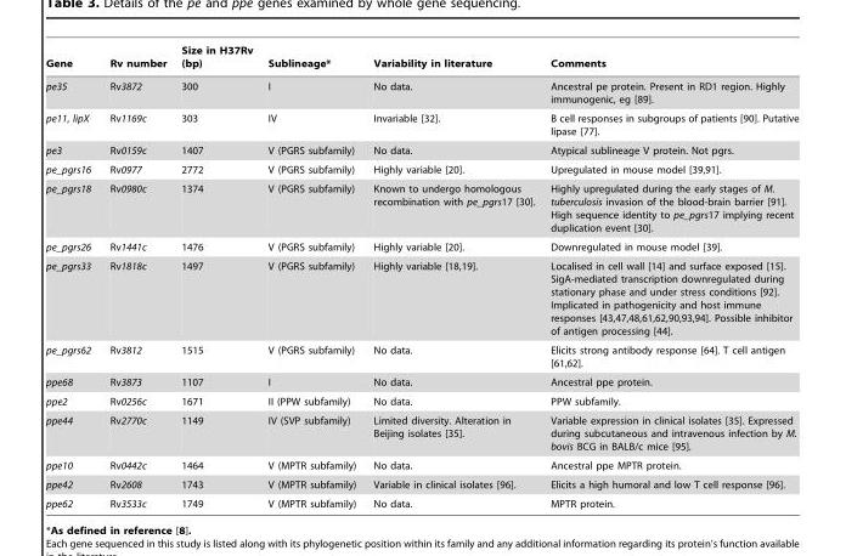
<table><thead><tr><td>Gene</td><td>Rv number</td><td>Size in H37Rv (bp)</td><td>Sublineage*</td><td>Variability in literature</td><td>Comments</td></tr></thead><tbody><tr><td>pe35</td><td>Rv3872</td><td>300</td><td>I</td><td>No data.</td><td>Ancestral pe protein. Present in RD1 region. Highly immunogenic, eg [89].</td></tr><tr><td>pe11, lipX</td><td>Rv1169c</td><td>303</td><td>IV</td><td>Invariable [32].</td><td>B cell responses in subgroups of patients [90]. Putative lipase [77].</td></tr><tr><td>pe3</td><td>Rv0159c</td><td>1407</td><td>V (PGRS subfamily)</td><td>No data.</td><td>Atypical sublineage V protein. Not pgrs.</td></tr><tr><td>pe_pgrs16</td><td>Rv0977</td><td>2772</td><td>V (PGRS subfamily)</td><td>Highly variable [20].</td><td>Upregulated in mouse model [39,91].</td></tr><tr><td>pe_pgrs18</td><td>Rv0980c</td><td>1374</td><td>V (PGRS subfamily)</td><td>Known to undergo homologous recombination with pe_pgrs17 [30].</td><td>Highly upregulated during the early stages of M. tuberculosis invasion of the blood-brain barrier [91]. High sequence identity to pe_pgrs17 implying recent duplication event [30].</td></tr><tr><td>pe_pgrs26</td><td>Rv1441c</td><td>1476</td><td>V (PGRS subfamily)</td><td>Highly variable [20].</td><td>Downregulated in mouse model [39].</td></tr><tr><td>pe_pgrs33</td><td>Rv1818c</td><td>1497</td><td>V (PGRS subfamily)</td><td>Highly variable [18,19].</td><td>Localised in cell wall [14] and surface exposed [15]. SigA-mediated transcription downregulated during stationary phase and under stress conditions [92]. Implicated in pathogenicity and host immune responses [43,47,48,61,62,90,93,94]. Possible inhibitor of antigen processing [44].</td></tr><tr><td>pe_pgrs62</td><td>Rv3812</td><td>1515</td><td>V (PGRS subfamily)</td><td>No data.</td><td>Elicits strong antibody response [64]. T cell antigen [61,62].</td></tr><tr><td>ppe68</td><td>Rv3873</td><td>1107</td><td>I</td><td>No data.</td><td>Ancestral ppe protein.</td></tr><tr><td>ppe2</td><td>Rv0256c</td><td>1671</td><td>II (PPW subfamily)</td><td>No data.</td><td>PPW subfamily.</td></tr><tr><td>ppe44</td><td>Rv2770c</td><td>1149</td><td>IV (SVP subfamily)</td><td>Limited diversity. Alteration in Beijing isolates [35].</td><td>Variable expression in clinical isolates [35]. Expressed during subcutaneous and intravenous infection by M. bovis BCG in BALB/c mice [95].</td></tr><tr><td>ppe10</td><td>Rv0442c</td><td>1464</td><td>V (MPTR subfamily)</td><td>No data.</td><td>Ancestral ppe MPTR protein.</td></tr><tr><td>ppe42</td><td>Rv2608</td><td>1743</td><td>V (MPTR subfamily)</td><td>Variable in clinical isolates [96].</td><td>Elicits a high humoral and low T cell response [96].</td></tr><tr><td>ppe62</td><td>Rv3533c</td><td>1749</td><td>V (MPTR subfamily)</td><td>No data.</td><td>MPTR protein.</td></tr></tbody></table>